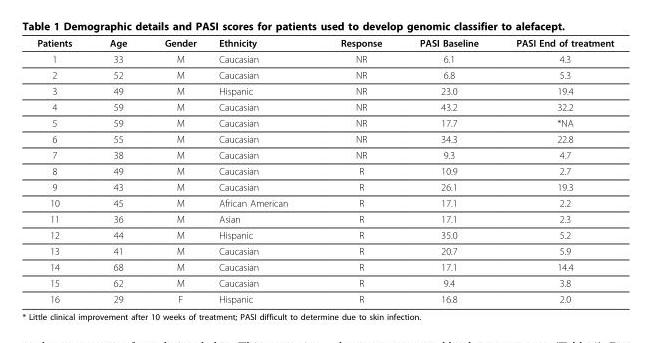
<table><thead><tr><td>Patients</td><td>Age</td><td>Gender</td><td>Ethnicity</td><td>Response</td><td>PASI Baseline</td><td>PASI End of treatment</td></tr></thead><tbody><tr><td>1</td><td>33</td><td>M</td><td>Caucasian</td><td>NR</td><td>6.1</td><td>4.3</td></tr><tr><td>2</td><td>52</td><td>M</td><td>Caucasian</td><td>NR</td><td>6.8</td><td>5.3</td></tr><tr><td>3</td><td>49</td><td>M</td><td>Hispanic</td><td>NR</td><td>23.0</td><td>19.4</td></tr><tr><td>4</td><td>59</td><td>M</td><td>Caucasian</td><td>NR</td><td>43.2</td><td>32.2</td></tr><tr><td>5</td><td>59</td><td>M</td><td>Caucasian</td><td>NR</td><td>17.7</td><td>*NA</td></tr><tr><td>6</td><td>55</td><td>M</td><td>Caucasian</td><td>NR</td><td>34.3</td><td>22.8</td></tr><tr><td>7</td><td>38</td><td>M</td><td>Caucasian</td><td>NR</td><td>9.3</td><td>4.7</td></tr><tr><td>8</td><td>49</td><td>M</td><td>Caucasian</td><td>R</td><td>10.9</td><td>2.7</td></tr><tr><td>9</td><td>43</td><td>M</td><td>Caucasian</td><td>R</td><td>26.1</td><td>19.3</td></tr><tr><td>10</td><td>45</td><td>M</td><td>African American</td><td>R</td><td>17.1</td><td>2.2</td></tr><tr><td>11</td><td>36</td><td>M</td><td>Asian</td><td>R</td><td>17.1</td><td>2.3</td></tr><tr><td>12</td><td>44</td><td>M</td><td>Hispanic</td><td>R</td><td>35.0</td><td>5.2</td></tr><tr><td>13</td><td>41</td><td>M</td><td>Caucasian</td><td>R</td><td>20.7</td><td>5.9</td></tr><tr><td>14</td><td>68</td><td>M</td><td>Caucasian</td><td>R</td><td>17.1</td><td>14.4</td></tr><tr><td>15</td><td>62</td><td>M</td><td>Caucasian</td><td>R</td><td>9.4</td><td>3.8</td></tr><tr><td>16</td><td>29</td><td>F</td><td>Hispanic</td><td>R</td><td>16.8</td><td>2.0</td></tr></tbody></table>